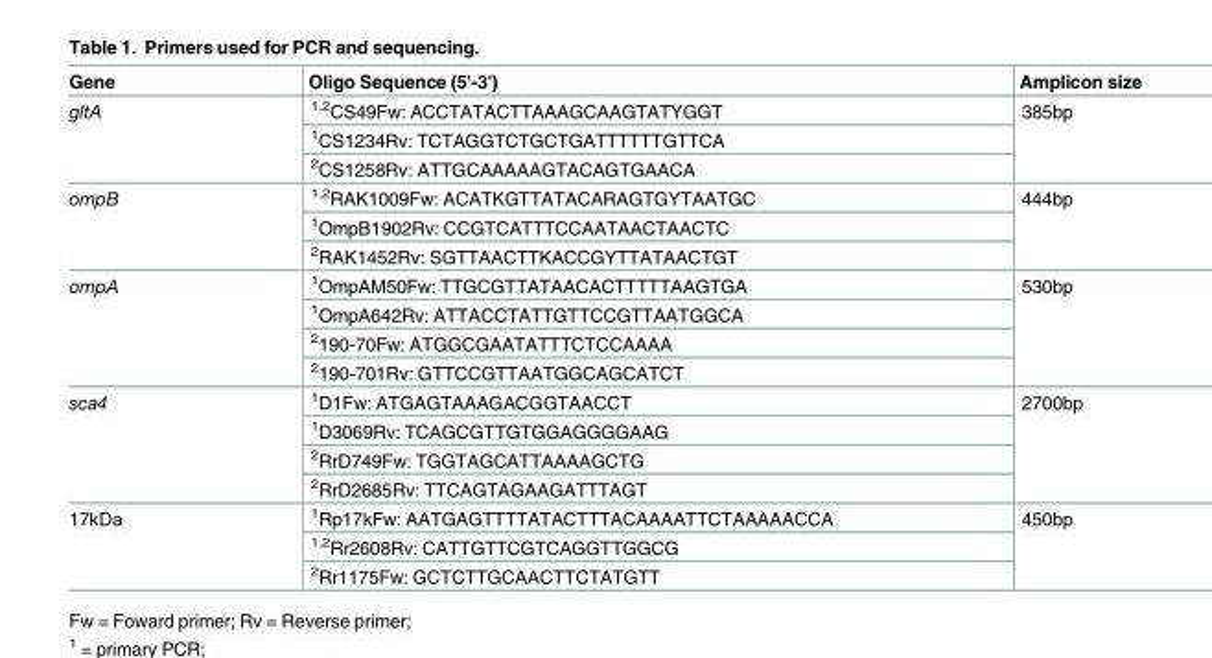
<table><thead><tr><td>Gene</td><td>Oligo Sequence (5&#x27;-3&#x27;)</td><td>Amplicon size</td></tr></thead><tbody><tr><td rowspan="3">gltA</td><td><sup>1,2</sup>CS49Fw: ACCTATACTTAAAGCAAGTATYGGT</td><td rowspan="3">385bp</td></tr><tr><td><sup>1</sup>CS1234Rv: TCTAGGTCTGCTGATTTTTTGTTCA</td></tr><tr><td><sup>2</sup>CS1258Rv: ATTGCAAAAAGTACAGTGAACA</td></tr><tr><td rowspan="3">ompB</td><td><sup>1,2</sup>RAK1009Fw: ACATKGTTATACARAGTGYTAATGC</td><td rowspan="3">444bp</td></tr><tr><td><sup>1</sup>OmpB1902Rv: CCGTCATTTCCAATAACTAACTC</td></tr><tr><td><sup>2</sup>RAK1452Rv: SGTTAACTTKACCGYTTATAACTGT</td></tr><tr><td rowspan="4">ompA</td><td><sup>1</sup>OmpAM50Fw: TTGCGTTATAACACTTTTTAAGTGA</td><td rowspan="4">530bp</td></tr><tr><td><sup>1</sup>OmpA642Rv: ATTACCTATTGTTCCGTTAATGGCA</td></tr><tr><td><sup>2</sup>190-70Fw: ATGGCGAATATTTCTCCAAAA</td></tr><tr><td><sup>2</sup>190-701Rv: GTTCCGTTAATGGCAGCATCT</td></tr><tr><td rowspan="4">sca4</td><td><sup>1</sup>D1Fw: ATGAGTAAAGACGGTAACCT</td><td rowspan="4">2700bp</td></tr><tr><td><sup>1</sup>D3069Rv: TCAGCGTTGTGGAGGGGAAG</td></tr><tr><td><sup>2</sup>RrD749Fw: TGGTAGCATTAAAAGCTG</td></tr><tr><td><sup>2</sup>RrD2685Rv: TTCAGTAGAAGATTTAGT</td></tr><tr><td rowspan="3">17kDa</td><td><sup>1</sup>Rp17kFw: AATGAGTTTTATACTTTACAAAATTCTAAAAACCA</td><td rowspan="3">450bp</td></tr><tr><td><sup>1,2</sup>Rr2608Rv: CATTGTTCGTCAGGTTGGCG</td></tr><tr><td><sup>2</sup>Rr1175Fw: GCTCTTGCAACTTCTATGTT</td></tr></tbody></table>